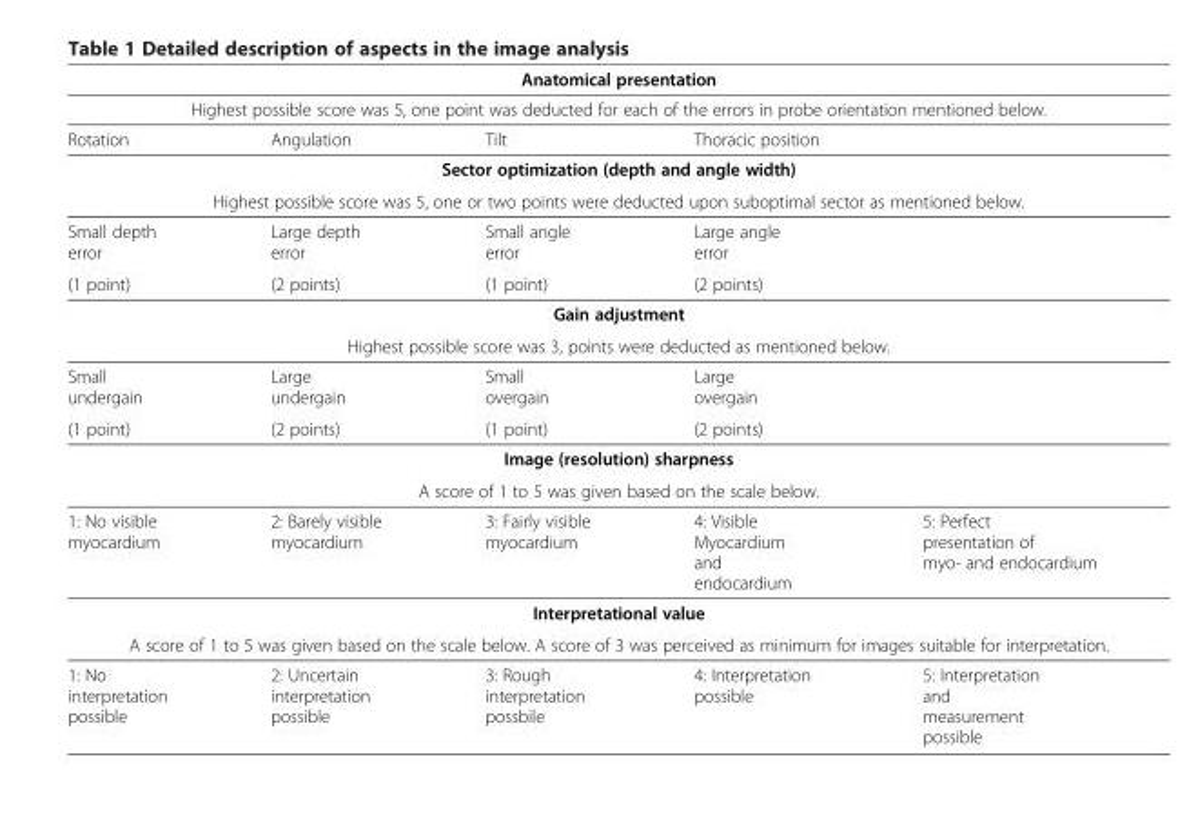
<table><thead><tr><td rowspan="2" colspan="5">Anatomical presentation Highest possible score was 5, one point was deducted for each of the errors in probe orientation mentioned below.</td></tr><tr></tr><tr><td>Rotation</td><td>Angulation</td><td>Tilt</td><td>Thoracic position</td><td></td></tr></thead><tbody><tr><td colspan="5">Sector optimization (depth and angle width)</td></tr><tr><td colspan="5">Highest possible score was 5, one or two points were deducted upon suboptimal sector as mentioned below.</td></tr><tr><td>Small depth error</td><td>Large depth error</td><td>Small angle error</td><td colspan="2">Large angle error</td></tr><tr><td>(1 point)</td><td>(2 points)</td><td>(1 point)</td><td colspan="2">(2 points)</td></tr><tr><td colspan="5">Gain adjustment</td></tr><tr><td colspan="5">Highest possible score was 3, points were deducted as mentioned below.</td></tr><tr><td>Small undergain</td><td>Large undergain</td><td>Small overgain</td><td colspan="2">Large overgain</td></tr><tr><td>(1 point)</td><td>(2 points)</td><td>(1 point)</td><td colspan="2">(2 points)</td></tr><tr><td colspan="5">Image (resolution) sharpness</td></tr><tr><td colspan="5">A score of 1 to 5 was given based on the scale below.</td></tr><tr><td>1: No visible myocardium</td><td>2: Barely visible myocardium</td><td>3: Fairly visible myocardium</td><td>4: Visible Myocardium and endocardium</td><td>5: Perfect presentation of myo- and endocardium</td></tr><tr><td colspan="5">Interpretational value</td></tr><tr><td colspan="5">A score of 1 to 5 was given based on the scale below. A score of 3 was perceived as minimum for images suitable for interpretation.</td></tr><tr><td>1: No interpretation possible</td><td>2: Uncertain interpretation possible</td><td>3: Rough interpretation possbile</td><td>4: Interpretation possible</td><td>5: Interpretation and measurement possible</td></tr></tbody></table>